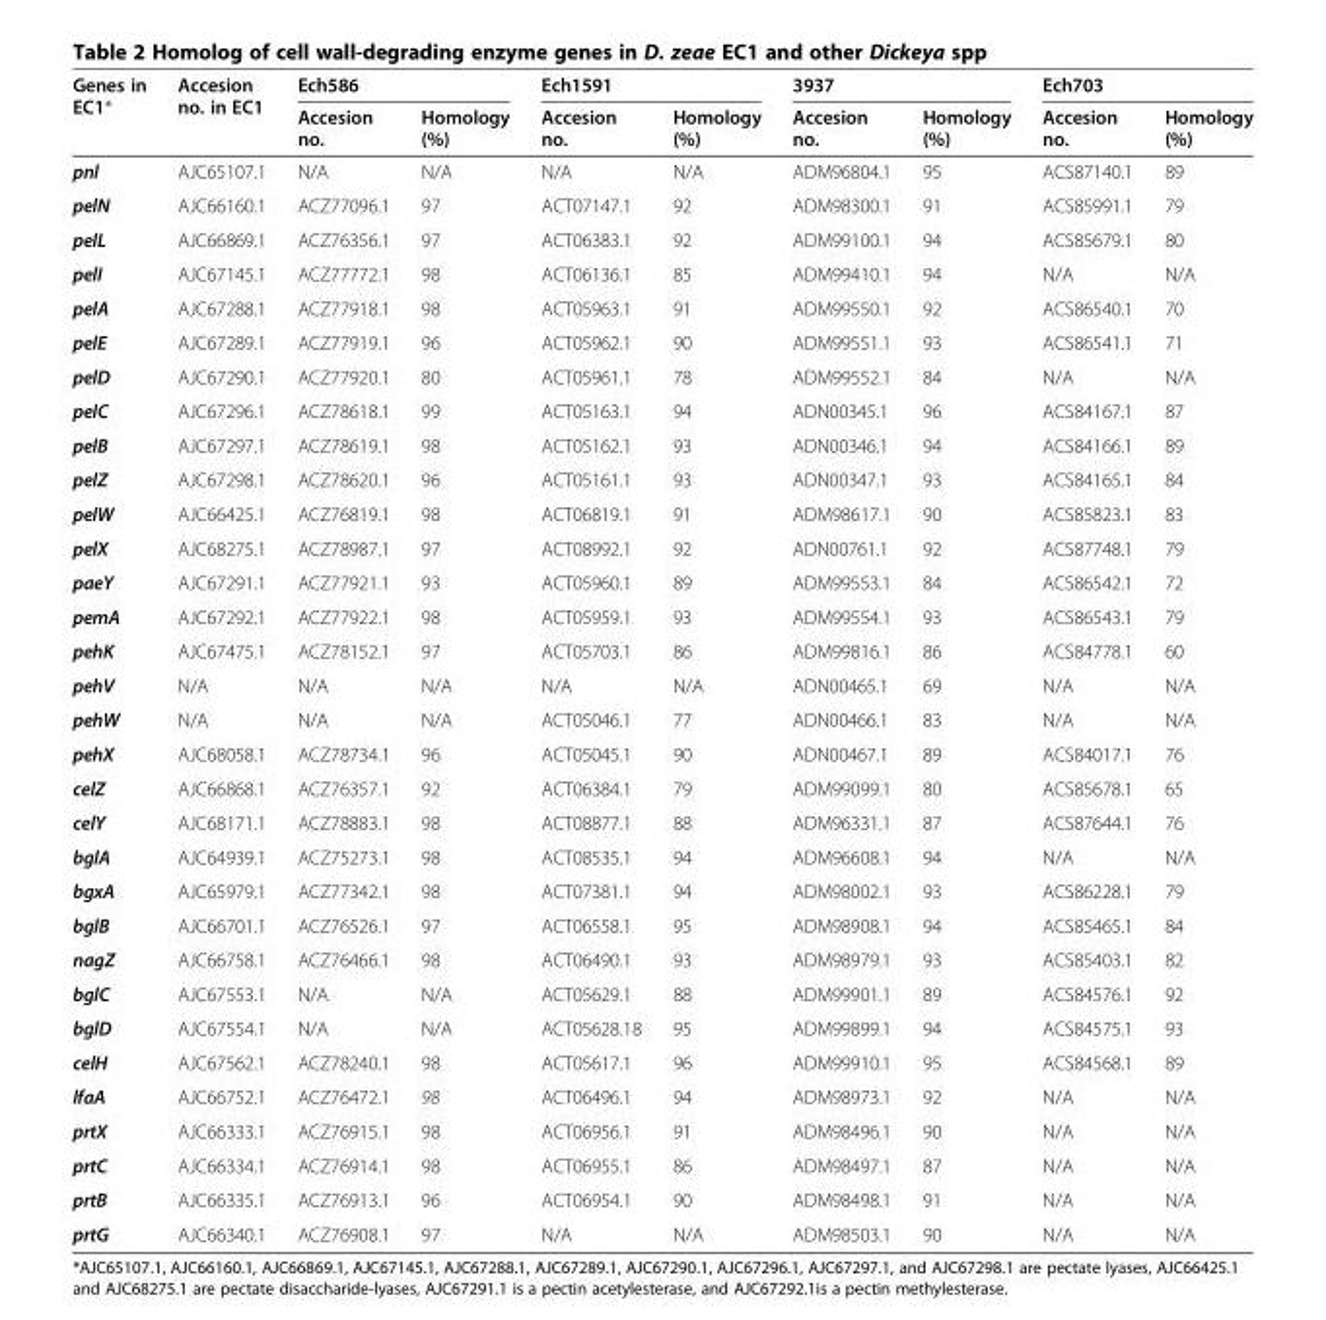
<table><thead><tr><td rowspan="2">Genes in EC1*</td><td rowspan="2">Accesion no. in EC1</td><td colspan="2">Ech586</td><td colspan="2">Ech1591</td><td colspan="2">3937</td><td colspan="2">Ech703</td></tr><tr><td>Accesion no.</td><td>Homology (%)</td><td>Accesion no.</td><td>Homology (%)</td><td>Accesion no.</td><td>Homology (%)</td><td>Accesion no.</td><td>Homology (%)</td></tr></thead><tbody><tr><td>pnl</td><td>AJC65107.1</td><td>N/A</td><td>N/A</td><td>N/A</td><td>N/A</td><td>ADM96804.1</td><td>95</td><td>ACS87140.1</td><td>89</td></tr><tr><td>pelN</td><td>AJC66160.1</td><td>ACZ77096.1</td><td>97</td><td>ACT07147.1</td><td>92</td><td>ADM98300.1</td><td>91</td><td>ACS85991.1</td><td>79</td></tr><tr><td>pelL</td><td>AJC66869.1</td><td>ACZ76356.1</td><td>97</td><td>ACT06383.1</td><td>92</td><td>ADM99100.1</td><td>94</td><td>ACS85679.1</td><td>80</td></tr><tr><td>pelI</td><td>AJC67145.1</td><td>ACZ77772.1</td><td>98</td><td>ACT06136.1</td><td>85</td><td>ADM99410.1</td><td>94</td><td>N/A</td><td>N/A</td></tr><tr><td>pelA</td><td>AJC67288.1</td><td>ACZ77918.1</td><td>98</td><td>ACT05963.1</td><td>91</td><td>ADM99550.1</td><td>92</td><td>ACS86540.1</td><td>70</td></tr><tr><td>pelE</td><td>AJC67289.1</td><td>ACZ77919.1</td><td>96</td><td>ACT05962.1</td><td>90</td><td>ADM99551.1</td><td>93</td><td>ACS86541.1</td><td>71</td></tr><tr><td>pelD</td><td>AJC67290.1</td><td>ACZ77920.1</td><td>80</td><td>ACT05961.1</td><td>78</td><td>ADM99552.1</td><td>84</td><td>N/A</td><td>N/A</td></tr><tr><td>pelC</td><td>AJC67296.1</td><td>ACZ78618.1</td><td>99</td><td>ACT05163.1</td><td>94</td><td>ADN00345.1</td><td>96</td><td>ACS84167.1</td><td>87</td></tr><tr><td>pelB</td><td>AJC67297.1</td><td>ACZ78619.1</td><td>98</td><td>ACT05162.1</td><td>93</td><td>ADN00346.1</td><td>94</td><td>ACS84166.1</td><td>89</td></tr><tr><td>pelZ</td><td>AJC67298.1</td><td>ACZ78620.1</td><td>96</td><td>ACT05161.1</td><td>93</td><td>ADN00347.1</td><td>93</td><td>ACS84165.1</td><td>84</td></tr><tr><td>pelW</td><td>AJC66425.1</td><td>ACZ76819.1</td><td>98</td><td>ACT06819.1</td><td>91</td><td>ADM98617.1</td><td>90</td><td>ACS85823.1</td><td>83</td></tr><tr><td>pelX</td><td>AJC68275.1</td><td>ACZ78987.1</td><td>97</td><td>ACT08992.1</td><td>92</td><td>ADN00761.1</td><td>92</td><td>ACS87748.1</td><td>79</td></tr><tr><td>paeY</td><td>AJC67291.1</td><td>ACZ77921.1</td><td>93</td><td>ACT05960.1</td><td>89</td><td>ADM99553.1</td><td>84</td><td>ACS86542.1</td><td>72</td></tr><tr><td>pemA</td><td>AJC67292.1</td><td>ACZ77922.1</td><td>98</td><td>ACT05959.1</td><td>93</td><td>ADM99554.1</td><td>93</td><td>ACS86543.1</td><td>79</td></tr><tr><td>pehK</td><td>AJC67475.1</td><td>ACZ78152.1</td><td>97</td><td>ACT05703.1</td><td>86</td><td>ADM99816.1</td><td>86</td><td>ACS84778.1</td><td>60</td></tr><tr><td>pehV</td><td>N/A</td><td>N/A</td><td>N/A</td><td>N/A</td><td>N/A</td><td>ADN00465.1</td><td>69</td><td>N/A</td><td>N/A</td></tr><tr><td>pehW</td><td>N/A</td><td>N/A</td><td>N/A</td><td>ACT05046.1</td><td>77</td><td>ADN00466.1</td><td>83</td><td>N/A</td><td>N/A</td></tr><tr><td>pehX</td><td>AJC68058.1</td><td>ACZ78734.1</td><td>96</td><td>ACT05045.1</td><td>90</td><td>ADN00467.1</td><td>89</td><td>ACS84017.1</td><td>76</td></tr><tr><td>celZ</td><td>AJC66868.1</td><td>ACZ76357.1</td><td>92</td><td>ACT06384.1</td><td>79</td><td>ADM99099.1</td><td>80</td><td>ACS85678.1</td><td>65</td></tr><tr><td>celY</td><td>AJC68171.1</td><td>ACZ78883.1</td><td>98</td><td>ACT08877.1</td><td>88</td><td>ADM96331.1</td><td>87</td><td>ACS87644.1</td><td>76</td></tr><tr><td>bglA</td><td>AJC64939.1</td><td>ACZ75273.1</td><td>98</td><td>ACT08535.1</td><td>94</td><td>ADM96608.1</td><td>94</td><td>N/A</td><td>N/A</td></tr><tr><td>bgxA</td><td>AJC65979.1</td><td>ACZ77342.1</td><td>98</td><td>ACT07381.1</td><td>94</td><td>ADM98002.1</td><td>93</td><td>ACS86228.1</td><td>79</td></tr><tr><td>bglB</td><td>AJC66701.1</td><td>ACZ76526.1</td><td>97</td><td>ACT06558.1</td><td>95</td><td>ADM98908.1</td><td>94</td><td>ACS85465.1</td><td>84</td></tr><tr><td>nagZ</td><td>AJC66758.1</td><td>ACZ76466.1</td><td>98</td><td>ACT06490.1</td><td>93</td><td>ADM98979.1</td><td>93</td><td>ACS85403.1</td><td>82</td></tr><tr><td>bglC</td><td>AJC67553.1</td><td>N/A</td><td>N/A</td><td>ACT05629.1</td><td>88</td><td>ADM99901.1</td><td>89</td><td>ACS84576.1</td><td>92</td></tr><tr><td>bglD</td><td>AJC67554.1</td><td>N/A</td><td>N/A</td><td>ACT05628.18</td><td>95</td><td>ADM99899.1</td><td>94</td><td>ACS84575.1</td><td>93</td></tr><tr><td>celH</td><td>AJC67562.1</td><td>ACZ78240.1</td><td>98</td><td>ACT05617.1</td><td>96</td><td>ADM99910.1</td><td>95</td><td>ACS84568.1</td><td>89</td></tr><tr><td>lfaA</td><td>AJC66752.1</td><td>ACZ76472.1</td><td>98</td><td>ACT06496.1</td><td>94</td><td>ADM98973.1</td><td>92</td><td>N/A</td><td>N/A</td></tr><tr><td>prtX</td><td>AJC66333.1</td><td>ACZ76915.1</td><td>98</td><td>ACT06956.1</td><td>91</td><td>ADM98496.1</td><td>90</td><td>N/A</td><td>N/A</td></tr><tr><td>prtC</td><td>AJC66334.1</td><td>ACZ76914.1</td><td>98</td><td>ACT06955.1</td><td>86</td><td>ADM98497.1</td><td>87</td><td>N/A</td><td>N/A</td></tr><tr><td>prtB</td><td>AJC66335.1</td><td>ACZ76913.1</td><td>96</td><td>ACT06954.1</td><td>90</td><td>ADM98498.1</td><td>91</td><td>N/A</td><td>N/A</td></tr><tr><td>prtG</td><td>AJC66340.1</td><td>ACZ76908.1</td><td>97</td><td>N/A</td><td>N/A</td><td>ADM98503.1</td><td>90</td><td>N/A</td><td>N/A</td></tr></tbody></table>